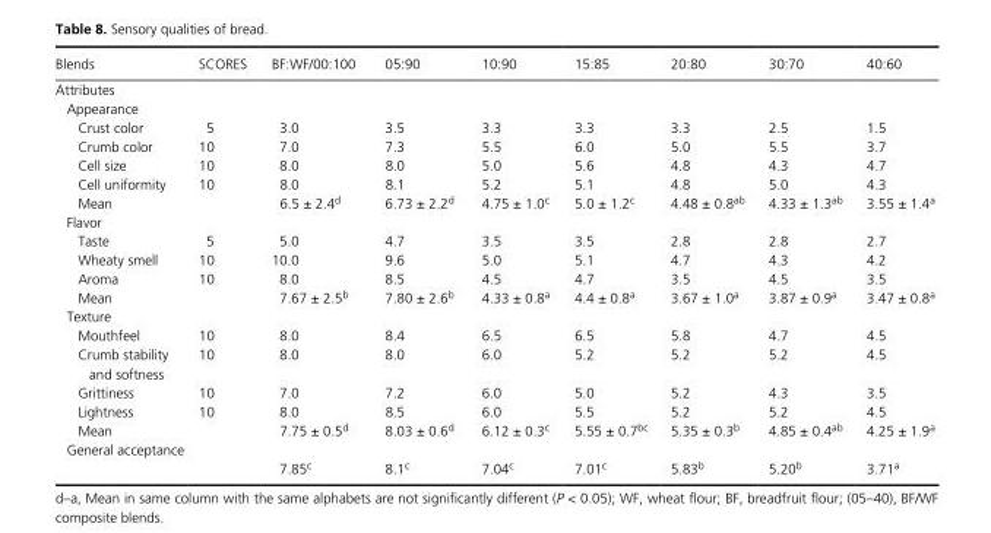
<table><thead><tr><td>Blends</td><td>SCORES</td><td>BF:WF/00:100</td><td>05:90</td><td>10:90</td><td>15:85</td><td>20:80</td><td>30:70</td><td>40:60</td></tr></thead><tbody><tr><td colspan="9">Attributes</td></tr><tr><td colspan="9">Appearance</td></tr><tr><td>Crust color</td><td>5</td><td>3.0</td><td>3.5</td><td>3.3</td><td>3.3</td><td>3.3</td><td>2.5</td><td>1.5</td></tr><tr><td>Crumb color</td><td>10</td><td>7.0</td><td>7.3</td><td>5.5</td><td>6.0</td><td>5.0</td><td>5.5</td><td>3.7</td></tr><tr><td>Cell size</td><td>10</td><td>8.0</td><td>8.0</td><td>5.0</td><td>5.6</td><td>4.8</td><td>4.3</td><td>4.7</td></tr><tr><td>Cell uniformity</td><td>10</td><td>8.0</td><td>8.1</td><td>5.2</td><td>5.1</td><td>4.8</td><td>5.0</td><td>4.3</td></tr><tr><td>Mean</td><td></td><td>6.5 ± 2.4<sup>d</sup></td><td>6.73 ± 2.2<sup>d</sup></td><td>4.75 ± 1.0<sup>c</sup></td><td>5.0 ± 1.2<sup>c</sup></td><td>4.48 ± 0.8<sup>ab</sup></td><td>4.33 ± 1.3<sup>ab</sup></td><td>3.55 ± 1.4<sup>a</sup></td></tr><tr><td colspan="9">Flavor</td></tr><tr><td>Taste</td><td>5</td><td>5.0</td><td>4.7</td><td>3.5</td><td>3.5</td><td>2.8</td><td>2.8</td><td>2.7</td></tr><tr><td>Wheaty smell</td><td>10</td><td>10.0</td><td>9.6</td><td>5.0</td><td>5.1</td><td>4.7</td><td>4.3</td><td>4.2</td></tr><tr><td>Aroma</td><td>10</td><td>8.0</td><td>8.5</td><td>4.5</td><td>4.7</td><td>3.5</td><td>4.5</td><td>3.5</td></tr><tr><td>Mean</td><td></td><td>7.67 ± 2.5<sup>b</sup></td><td>7.80 ± 2.6<sup>b</sup></td><td>4.33 ± 0.8<sup>a</sup></td><td>4.4 ± 0.8<sup>a</sup></td><td>3.67 ± 1.0<sup>a</sup></td><td>3.87 ± 0.9<sup>a</sup></td><td>3.47 ± 0.8<sup>a</sup></td></tr><tr><td colspan="9">Texture</td></tr><tr><td>Mouthfeel</td><td>10</td><td>8.0</td><td>8.4</td><td>6.5</td><td>6.5</td><td>5.8</td><td>4.7</td><td>4.5</td></tr><tr><td>Crumb stability and softness</td><td>10</td><td>8.0</td><td>8.0</td><td>6.0</td><td>5.2</td><td>5.2</td><td>5.2</td><td>4.5</td></tr><tr><td>Grittiness</td><td>10</td><td>7.0</td><td>7.2</td><td>6.0</td><td>5.0</td><td>5.2</td><td>4.3</td><td>3.5</td></tr><tr><td>Lightness</td><td>10</td><td>8.0</td><td>8.5</td><td>6.0</td><td>5.5</td><td>5.2</td><td>5.2</td><td>4.5</td></tr><tr><td>Mean</td><td></td><td>7.75 ± 0.5<sup>d</sup></td><td>8.03 ± 0.6<sup>d</sup></td><td>6.12 ± 0.3<sup>c</sup></td><td>5.55 ± 0.7<sup>bc</sup></td><td>5.35 ± 0.3<sup>b</sup></td><td>4.85 ± 0.4<sup>ab</sup></td><td>4.25 ± 1.9<sup>a</sup></td></tr><tr><td colspan="9">General acceptance</td></tr><tr><td></td><td></td><td>7.85<sup>c</sup></td><td>8.1<sup>c</sup></td><td>7.04<sup>c</sup></td><td>7.01<sup>c</sup></td><td>5.83<sup>b</sup></td><td>5.20<sup>b</sup></td><td>3.71<sup>a</sup></td></tr></tbody></table>